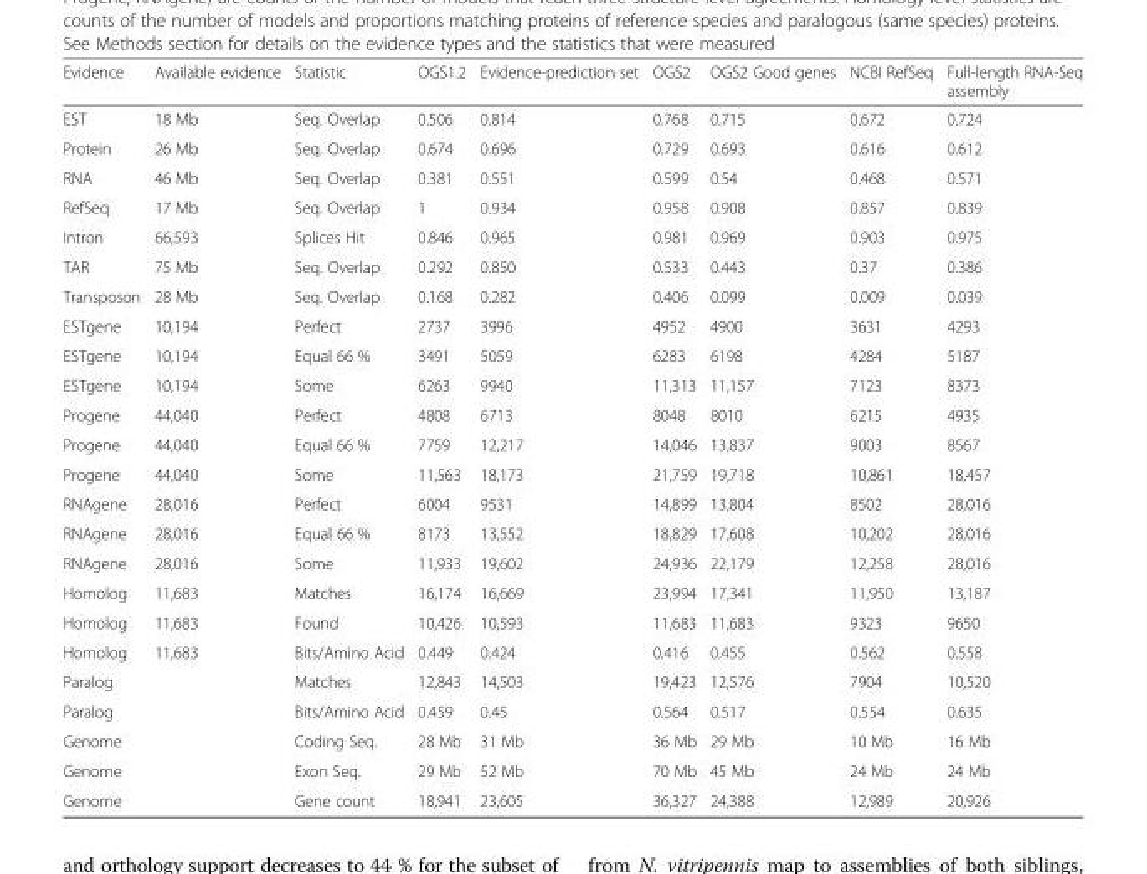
<table><thead><tr><td>Evidence</td><td>Available evidence</td><td>Statistic</td><td>OGS1.2</td><td>Evidence-prediction set</td><td>OGS2</td><td>OGS2 Good genes</td><td>NCBI RefSeq</td><td>Full-length RNA-Seq assembly</td></tr></thead><tbody><tr><td>EST</td><td>18 Mb</td><td>Seq. Overlap</td><td>0.506</td><td>0.814</td><td>0.768</td><td>0.715</td><td>0.672</td><td>0.724</td></tr><tr><td>Protein</td><td>26 Mb</td><td>Seq. Overlap</td><td>0.674</td><td>0.696</td><td>0.729</td><td>0.693</td><td>0.616</td><td>0.612</td></tr><tr><td>RNA</td><td>46 Mb</td><td>Seq. Overlap</td><td>0.381</td><td>0.551</td><td>0.599</td><td>0.54</td><td>0.468</td><td>0.571</td></tr><tr><td>RefSeq</td><td>17 Mb</td><td>Seq. Overlap</td><td>1</td><td>0.934</td><td>0.958</td><td>0.908</td><td>0.857</td><td>0.839</td></tr><tr><td>Intron</td><td>66,593</td><td>Splices Hit</td><td>0.846</td><td>0.965</td><td>0.981</td><td>0.969</td><td>0.903</td><td>0.975</td></tr><tr><td>TAR</td><td>75 Mb</td><td>Seq. Overlap</td><td>0.292</td><td>0.850</td><td>0.533</td><td>0.443</td><td>0.37</td><td>0.386</td></tr><tr><td>Transposon</td><td>28 Mb</td><td>Seq. Overlap</td><td>0.168</td><td>0.282</td><td>0.406</td><td>0.099</td><td>0.009</td><td>0.039</td></tr><tr><td>ESTgene</td><td>10,194</td><td>Perfect</td><td>2737</td><td>3996</td><td>4952</td><td>4900</td><td>3631</td><td>4293</td></tr><tr><td>ESTgene</td><td>10,194</td><td>Equal 66 %</td><td>3491</td><td>5059</td><td>6283</td><td>6198</td><td>4284</td><td>5187</td></tr><tr><td>ESTgene</td><td>10,194</td><td>Some</td><td>6263</td><td>9940</td><td>11,313</td><td>11,157</td><td>7123</td><td>8373</td></tr><tr><td>Progene</td><td>44,040</td><td>Perfect</td><td>4808</td><td>6713</td><td>8048</td><td>8010</td><td>6215</td><td>4935</td></tr><tr><td>Progene</td><td>44,040</td><td>Equal 66 %</td><td>7759</td><td>12,217</td><td>14,046</td><td>13,837</td><td>9003</td><td>8567</td></tr><tr><td>Progene</td><td>44,040</td><td>Some</td><td>11,563</td><td>18,173</td><td>21,759</td><td>19,718</td><td>10,861</td><td>18,457</td></tr><tr><td>RNAgene</td><td>28,016</td><td>Perfect</td><td>6004</td><td>9531</td><td>14,899</td><td>13,804</td><td>8502</td><td>28,016</td></tr><tr><td>RNAgene</td><td>28,016</td><td>Equal 66 %</td><td>8173</td><td>13,552</td><td>18,829</td><td>17,608</td><td>10,202</td><td>28,016</td></tr><tr><td>RNAgene</td><td>28,016</td><td>Some</td><td>11,933</td><td>19,602</td><td>24,936</td><td>22,179</td><td>12,258</td><td>28,016</td></tr><tr><td>Homolog</td><td>11,683</td><td>Matches</td><td>16,174</td><td>16,669</td><td>23,994</td><td>17,341</td><td>11,950</td><td>13,187</td></tr><tr><td>Homolog</td><td>11,683</td><td>Found</td><td>10,426</td><td>10,593</td><td>11,683</td><td>11,683</td><td>9323</td><td>9650</td></tr><tr><td>Homolog</td><td>11,683</td><td>Bits/Amino Acid</td><td>0.449</td><td>0.424</td><td>0.416</td><td>0.455</td><td>0.562</td><td>0.558</td></tr><tr><td>Paralog</td><td></td><td>Matches</td><td>12,843</td><td>14,503</td><td>19,423</td><td>12,576</td><td>7904</td><td>10,520</td></tr><tr><td>Paralog</td><td></td><td>Bits/Amino Acid</td><td>0.459</td><td>0.45</td><td>0.564</td><td>0.517</td><td>0.554</td><td>0.635</td></tr><tr><td>Genome</td><td></td><td>Coding Seq.</td><td>28 Mb</td><td>31 Mb</td><td>36 Mb</td><td>29 Mb</td><td>10 Mb</td><td>16 Mb</td></tr><tr><td>Genome</td><td></td><td>Exon Seq.</td><td>29 Mb</td><td>52 Mb</td><td>70 Mb</td><td>45 Mb</td><td>24 Mb</td><td>24 Mb</td></tr><tr><td>Genome</td><td></td><td>Gene count</td><td>18,941</td><td>23,605</td><td>36,327</td><td>24,388</td><td>12,989</td><td>20,926</td></tr></tbody></table>